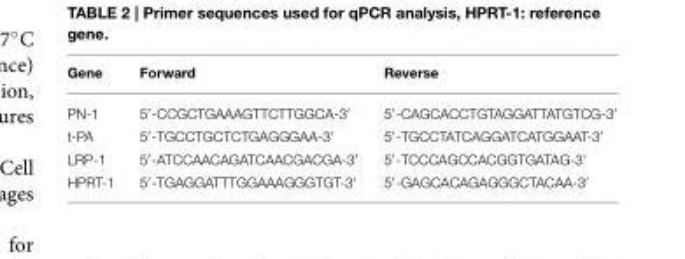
<table><thead><tr><td>Gene</td><td>Forward</td><td>Reverse</td></tr></thead><tbody><tr><td>PN-1</td><td>5′-CCGCTGAAAGTTCTTGGCA-3′</td><td>5′-CAGCACCTGTAGGATTATGTCG-3′</td></tr><tr><td>t-PA</td><td>5′-TGCCTGCTCTGAGGGAA-3′</td><td>5′-TGCCTATCAGGATCATGGAAT-3′</td></tr><tr><td>LRP-1</td><td>5′-ATCCAACAGATCAACGACGA-3′</td><td>5′-TCCCAGCCACGGTGATAG-3’</td></tr><tr><td>HPRT-1</td><td>5′-TGAGGATTTGGAAAGGGTGT-3′</td><td>5′-GAGCACAGAGGGCTACAA-3′</td></tr></tbody></table>